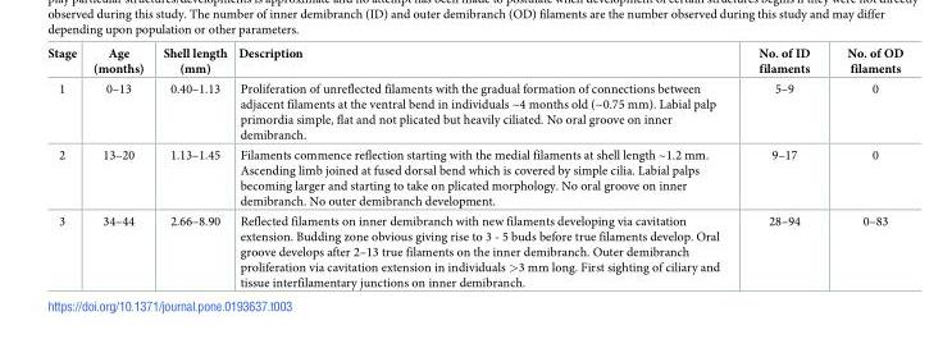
<table><thead><tr><td>Stage</td><td>Age (months)</td><td>Shell length (mm)</td><td>Description</td><td>No. of ID filaments</td><td>No. of OD filaments</td></tr></thead><tbody><tr><td>1</td><td>0–13</td><td>0.40–1.13</td><td>Proliferation of unreflected filaments with the gradual formation of connections between adjacent filaments at the ventral bend in individuals ~4 months old (~0.75 mm). Labial palp primordia simple, flat and not plicated but heavily ciliated. No oral groove on inner demibranch.</td><td>5–9</td><td>0</td></tr><tr><td>2</td><td>13–20</td><td>1.13–1.45</td><td>Filaments commence reflection starting with the medial filaments at shell length ~1.2 mm. Ascending limb joined at fused dorsal bend which is covered by simple cilia. Labial palps becoming larger and starting to take on plicated morphology. No oral groove on inner demibranch. No outer demibranch development.</td><td>9–17</td><td>0</td></tr><tr><td>3</td><td>34–44</td><td>2.66–8.90</td><td>Reflected filaments on inner demibranch with new filaments developing via cavitation extension. Budding zone obvious giving rise to 3 - 5 buds before true filaments develop. Oral groove develops after 2–13 true filaments on the inner demibranch. Outer demibranch proliferation via cavitation extension in individuals &gt;3 mm long. First sighting of ciliary and tissue interfilamentary junctions on inner demibranch.</td><td>28–94</td><td>0–83</td></tr></tbody></table>